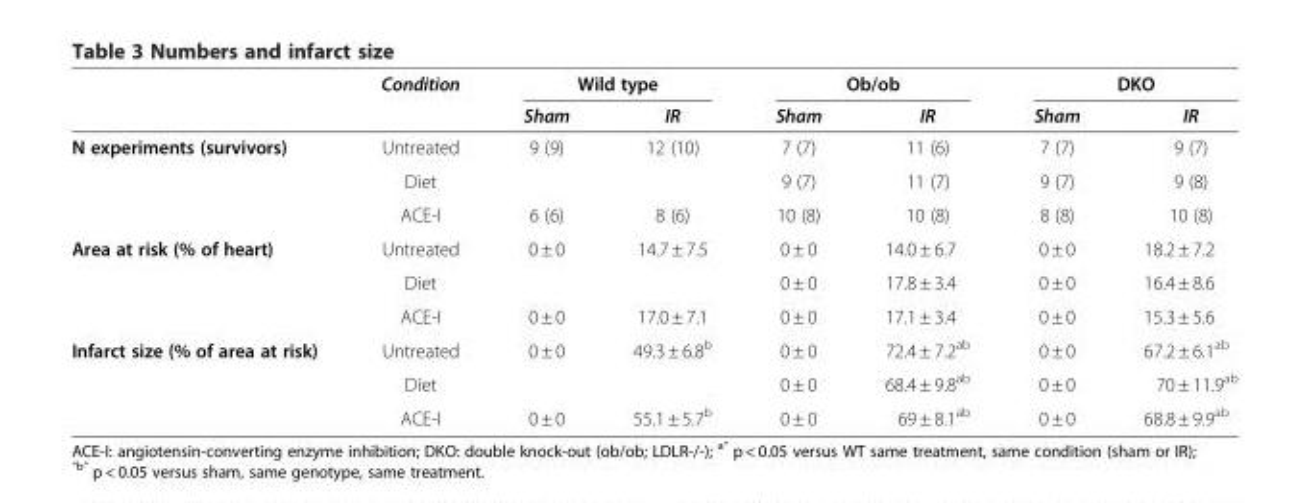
<table><thead><tr><td rowspan="2"></td><td rowspan="2">Condition</td><td colspan="2">Wild type</td><td colspan="2">Ob/ob</td><td colspan="2">DKO</td></tr><tr><td>Sham</td><td>IR</td><td>Sham</td><td>IR</td><td>Sham</td><td>IR</td></tr></thead><tbody><tr><td rowspan="3">N experiments (survivors)</td><td>Untreated</td><td>9 (9)</td><td>12 (10)</td><td>7 (7)</td><td>11 (6)</td><td>7 (7)</td><td>9 (7)</td></tr><tr><td>Diet</td><td></td><td></td><td>9 (7)</td><td>11 (7)</td><td>9 (7)</td><td>9 (8)</td></tr><tr><td>ACE-I</td><td>6 (6)</td><td>8 (6)</td><td>10 (8)</td><td>10 (8)</td><td>8 (8)</td><td>10 (8)</td></tr><tr><td rowspan="3">Area at risk (% of heart)</td><td>Untreated</td><td>0 ± 0</td><td>14.7 ± 7.5</td><td>0 ± 0</td><td>14.0 ± 6.7</td><td>0 ± 0</td><td>18.2 ± 7.2</td></tr><tr><td>Diet</td><td></td><td></td><td>0 ± 0</td><td>17.8 ± 3.4</td><td>0 ± 0</td><td>16.4 ± 8.6</td></tr><tr><td>ACE-I</td><td>0 ± 0</td><td>17.0 ± 7.1</td><td>0 ± 0</td><td>17.1 ± 3.4</td><td>0 ± 0</td><td>15.3 ± 5.6</td></tr><tr><td rowspan="3">Infarct size (% of area at risk)</td><td>Untreated</td><td>0 ± 0</td><td>49.3 ± 6.8<sup>b</sup></td><td>0 ± 0</td><td>72.4 ± 7.2<sup>ab</sup></td><td>0 ± 0</td><td>67.2 ± 6.1<sup>ab</sup></td></tr><tr><td>Diet</td><td></td><td></td><td>0 ± 0</td><td>68.4 ± 9.8<sup>ab</sup></td><td>0 ± 0</td><td>70 ± 11.9<sup>ab</sup></td></tr><tr><td>ACE-I</td><td>0 ± 0</td><td>55.1 ± 5.7<sup>b</sup></td><td>0 ± 0</td><td>69 ± 8.1<sup>ab</sup></td><td>0 ± 0</td><td>68.8 ± 9.9<sup>ab</sup></td></tr></tbody></table>